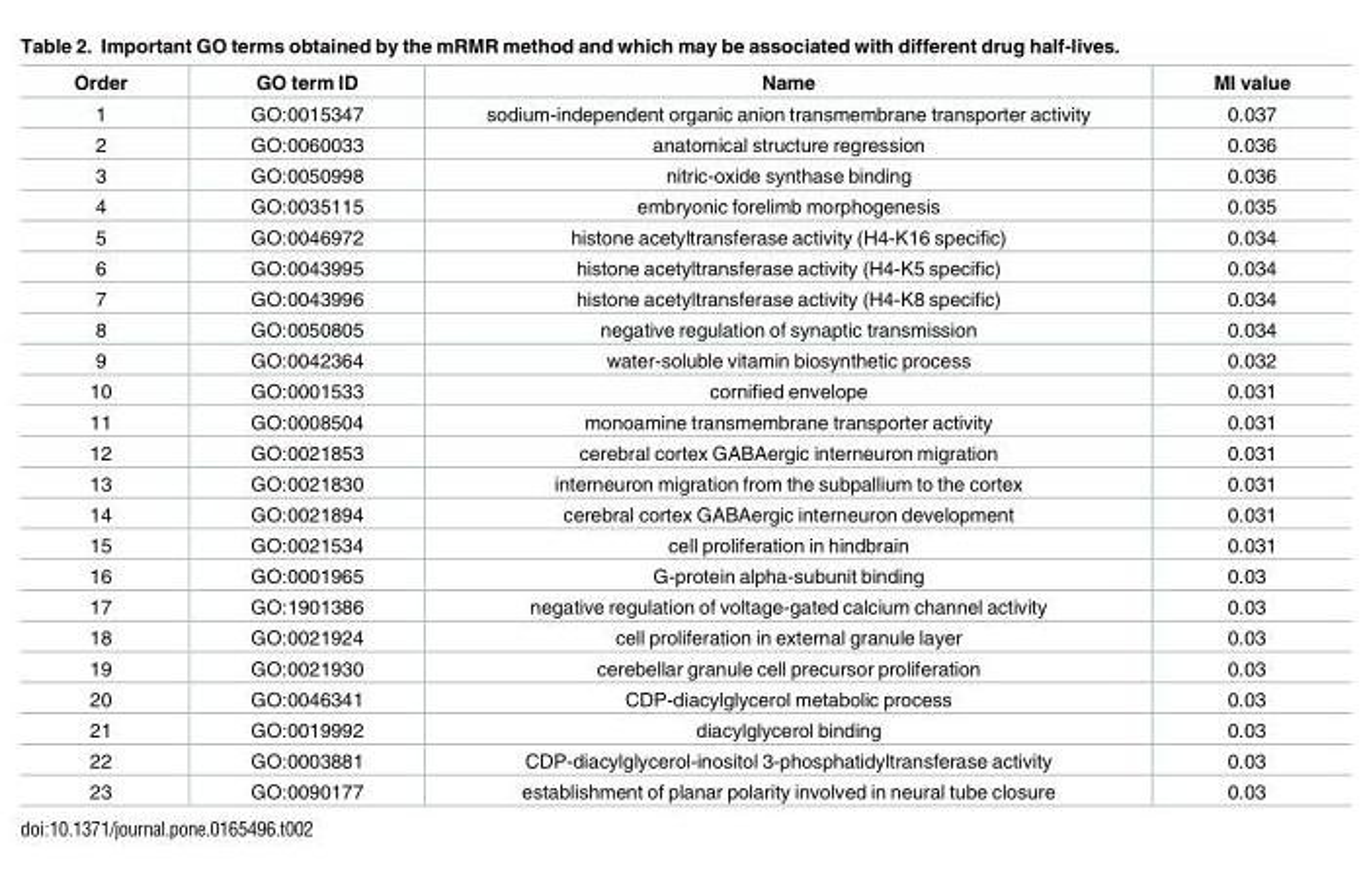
<table><thead><tr><td>Order</td><td>GO term ID</td><td>Name</td><td>MI value</td></tr></thead><tbody><tr><td>1</td><td>GO:0015347</td><td>sodium-independent organic anion transmembrane transporter activity</td><td>0.037</td></tr><tr><td>2</td><td>GO:0060033</td><td>anatomical structure regression</td><td>0.036</td></tr><tr><td>3</td><td>GO:0050998</td><td>nitric-oxide synthase binding</td><td>0.036</td></tr><tr><td>4</td><td>GO:0035115</td><td>embryonic forelimb morphogenesis</td><td>0.035</td></tr><tr><td>5</td><td>GO:0046972</td><td>histone acetyltransferase activity (H4-K16 specific)</td><td>0.034</td></tr><tr><td>6</td><td>GO:0043995</td><td>histone acetyltransferase activity (H4-K5 specific)</td><td>0.034</td></tr><tr><td>7</td><td>GO:0043996</td><td>histone acetyltransferase activity (H4-K8 specific)</td><td>0.034</td></tr><tr><td>8</td><td>GO:0050805</td><td>negative regulation of synaptic transmission</td><td>0.034</td></tr><tr><td>9</td><td>GO:0042364</td><td>water-soluble vitamin biosynthetic process</td><td>0.032</td></tr><tr><td>10</td><td>GO:0001533</td><td>cornified envelope</td><td>0.031</td></tr><tr><td>11</td><td>GO:0008504</td><td>monoamine transmembrane transporter activity</td><td>0.031</td></tr><tr><td>12</td><td>GO:0021853</td><td>cerebral cortex GABAergic interneuron migration</td><td>0.031</td></tr><tr><td>13</td><td>GO:0021830</td><td>interneuron migration from the subpallium to the cortex</td><td>0.031</td></tr><tr><td>14</td><td>GO:0021894</td><td>cerebral cortex GABAergic interneuron development</td><td>0.031</td></tr><tr><td>15</td><td>GO:0021534</td><td>cell proliferation in hindbrain</td><td>0.031</td></tr><tr><td>16</td><td>GO:0001965</td><td>G-protein alpha-subunit binding</td><td>0.03</td></tr><tr><td>17</td><td>GO:1901386</td><td>negative regulation of voltage-gated calcium channel activity</td><td>0.03</td></tr><tr><td>18</td><td>GO:0021924</td><td>cell proliferation in external granule layer</td><td>0.03</td></tr><tr><td>19</td><td>GO:0021930</td><td>cerebellar granule cell precursor proliferation</td><td>0.03</td></tr><tr><td>20</td><td>GO:0046341</td><td>CDP-diacylglycerol metabolic process</td><td>0.03</td></tr><tr><td>21</td><td>GO:0019992</td><td>diacylglycerol binding</td><td>0.03</td></tr><tr><td>22</td><td>GO:0003881</td><td>CDP-diacylglycerol-inositol 3-phosphatidyltransferase activity</td><td>0.03</td></tr><tr><td>23</td><td>GO:0090177</td><td>establishment of planar polarity involved in neural tube closure</td><td>0.03</td></tr></tbody></table>